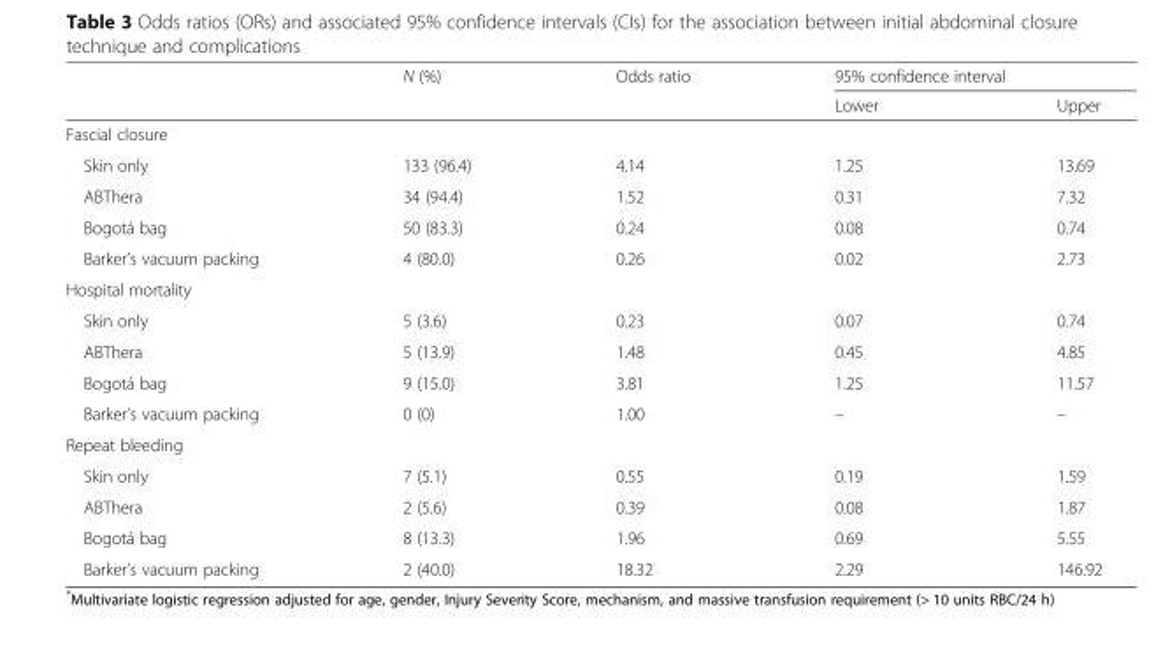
<table><thead><tr><td rowspan="2"></td><td rowspan="2">N (%)</td><td rowspan="2">Odds ratio</td><td colspan="2">95% confidence interval</td></tr><tr><td>Lower</td><td>Upper</td></tr></thead><tbody><tr><td colspan="5">Fascial closure</td></tr><tr><td>Skin only</td><td>133 (96.4)</td><td>4.14</td><td>1.25</td><td>13.69</td></tr><tr><td>ABThera</td><td>34 (94.4)</td><td>1.52</td><td>0.31</td><td>7.32</td></tr><tr><td>Bogotá bag</td><td>50 (83.3)</td><td>0.24</td><td>0.08</td><td>0.74</td></tr><tr><td>Barker’s vacuum packing</td><td>4 (80.0)</td><td>0.26</td><td>0.02</td><td>2.73</td></tr><tr><td colspan="5">Hospital mortality</td></tr><tr><td>Skin only</td><td>5 (3.6)</td><td>0.23</td><td>0.07</td><td>0.74</td></tr><tr><td>ABThera</td><td>5 (13.9)</td><td>1.48</td><td>0.45</td><td>4.85</td></tr><tr><td>Bogotá bag</td><td>9 (15.0)</td><td>3.81</td><td>1.25</td><td>11.57</td></tr><tr><td>Barker’s vacuum packing</td><td>0 (0)</td><td>1.00</td><td>–</td><td>–</td></tr><tr><td colspan="5">Repeat bleeding</td></tr><tr><td>Skin only</td><td>7 (5.1)</td><td>0.55</td><td>0.19</td><td>1.59</td></tr><tr><td>ABThera</td><td>2 (5.6)</td><td>0.39</td><td>0.08</td><td>1.87</td></tr><tr><td>Bogotá bag</td><td>8 (13.3)</td><td>1.96</td><td>0.69</td><td>5.55</td></tr><tr><td>Barker’s vacuum packing</td><td>2 (40.0)</td><td>18.32</td><td>2.29</td><td>146.92</td></tr></tbody></table>